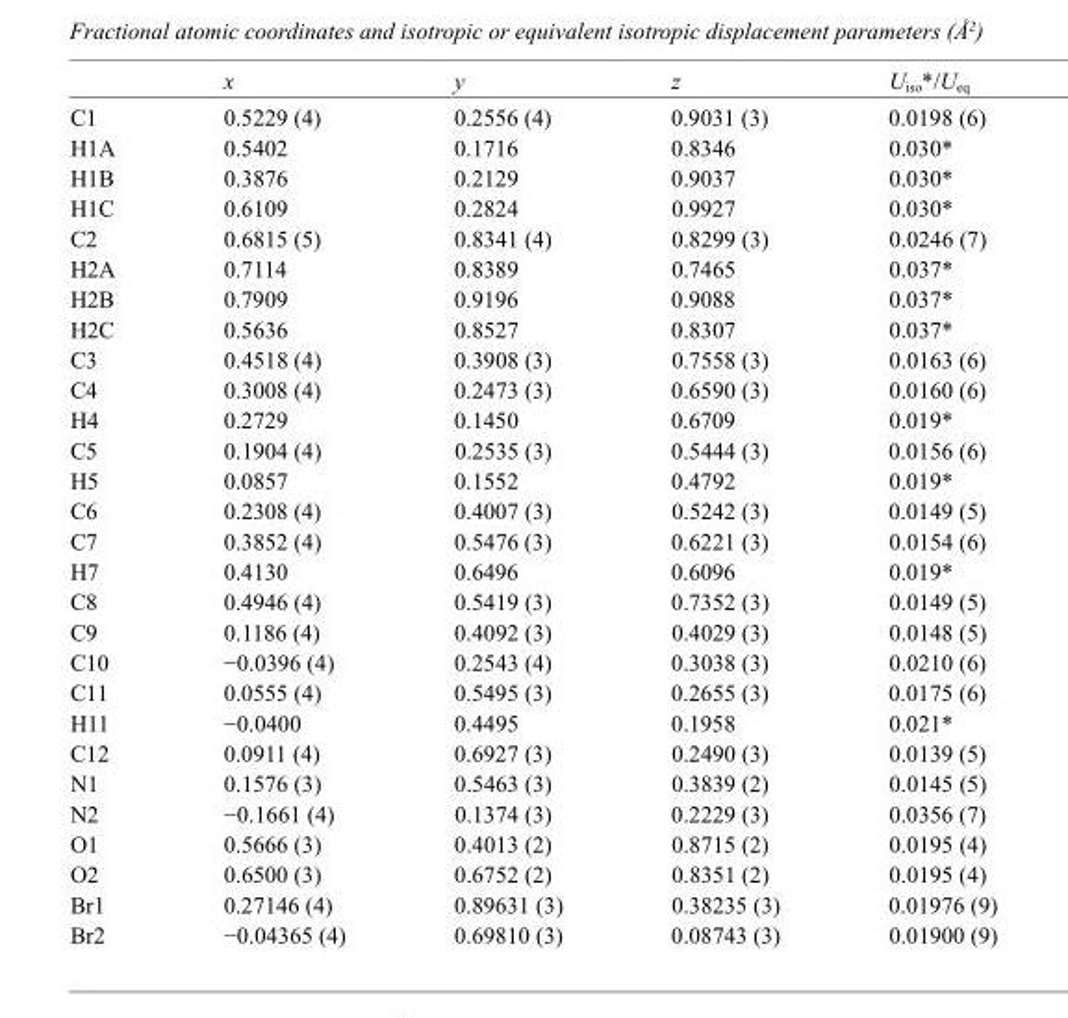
<table><thead><tr><td></td><td>x</td><td>y</td><td>z</td><td>U<sub>iso</sub>*/U<sub>eq</sub></td></tr></thead><tbody><tr><td>C1</td><td>0.5229 (4)</td><td>0.2556 (4)</td><td>0.9031 (3)</td><td>0.0198 (6)</td></tr><tr><td>H1A</td><td>0.5402</td><td>0.1716</td><td>0.8346</td><td>0.030*</td></tr><tr><td>H1B</td><td>0.3876</td><td>0.2129</td><td>0.9037</td><td>0.030*</td></tr><tr><td>H1C</td><td>0.6109</td><td>0.2824</td><td>0.9927</td><td>0.030*</td></tr><tr><td>C2</td><td>0.6815 (5)</td><td>0.8341 (4)</td><td>0.8299 (3)</td><td>0.0246 (7)</td></tr><tr><td>H2A</td><td>0.7114</td><td>0.8389</td><td>0.7465</td><td>0.037*</td></tr><tr><td>H2B</td><td>0.7909</td><td>0.9196</td><td>0.9088</td><td>0.037*</td></tr><tr><td>H2C</td><td>0.5636</td><td>0.8527</td><td>0.8307</td><td>0.037*</td></tr><tr><td>C3</td><td>0.4518 (4)</td><td>0.3908 (3)</td><td>0.7558 (3)</td><td>0.0163 (6)</td></tr><tr><td>C4</td><td>0.3008 (4)</td><td>0.2473 (3)</td><td>0.6590 (3)</td><td>0.0160 (6)</td></tr><tr><td>H4</td><td>0.2729</td><td>0.1450</td><td>0.6709</td><td>0.019*</td></tr><tr><td>C5</td><td>0.1904 (4)</td><td>0.2535 (3)</td><td>0.5444 (3)</td><td>0.0156 (6)</td></tr><tr><td>H5</td><td>0.0857</td><td>0.1552</td><td>0.4792</td><td>0.019*</td></tr><tr><td>C6</td><td>0.2308 (4)</td><td>0.4007 (3)</td><td>0.5242 (3)</td><td>0.0149 (5)</td></tr><tr><td>C7</td><td>0.3852 (4)</td><td>0.5476 (3)</td><td>0.6221 (3)</td><td>0.0154 (6)</td></tr><tr><td>H7</td><td>0.4130</td><td>0.6496</td><td>0.6096</td><td>0.019*</td></tr><tr><td>C8</td><td>0.4946 (4)</td><td>0.5419 (3)</td><td>0.7352 (3)</td><td>0.0149 (5)</td></tr><tr><td>C9</td><td>0.1186 (4)</td><td>0.4092 (3)</td><td>0.4029 (3)</td><td>0.0148 (5)</td></tr><tr><td>C10</td><td>−0.0396 (4)</td><td>0.2543 (4)</td><td>0.3038 (3)</td><td>0.0210 (6)</td></tr><tr><td>C11</td><td>0.0555 (4)</td><td>0.5495 (3)</td><td>0.2655 (3)</td><td>0.0175 (6)</td></tr><tr><td>H11</td><td>−0.0400</td><td>0.4495</td><td>0.1958</td><td>0.021*</td></tr><tr><td>C12</td><td>0.0911 (4)</td><td>0.6927 (3)</td><td>0.2490 (3)</td><td>0.0139 (5)</td></tr><tr><td>N1</td><td>0.1576 (3)</td><td>0.5463 (3)</td><td>0.3839 (2)</td><td>0.0145 (5)</td></tr><tr><td>N2</td><td>−0.1661 (4)</td><td>0.1374 (3)</td><td>0.2229 (3)</td><td>0.0356 (7)</td></tr><tr><td>O1</td><td>0.5666 (3)</td><td>0.4013 (2)</td><td>0.8715 (2)</td><td>0.0195 (4)</td></tr><tr><td>O2</td><td>0.6500 (3)</td><td>0.6752 (2)</td><td>0.8351 (2)</td><td>0.0195 (4)</td></tr><tr><td>Br1</td><td>0.27146 (4)</td><td>0.89631 (3)</td><td>0.38235 (3)</td><td>0.01976 (9)</td></tr><tr><td>Br2</td><td>−0.04365 (4)</td><td>0.69810 (3)</td><td>0.08743 (3)</td><td>0.01900 (9)</td></tr></tbody></table>